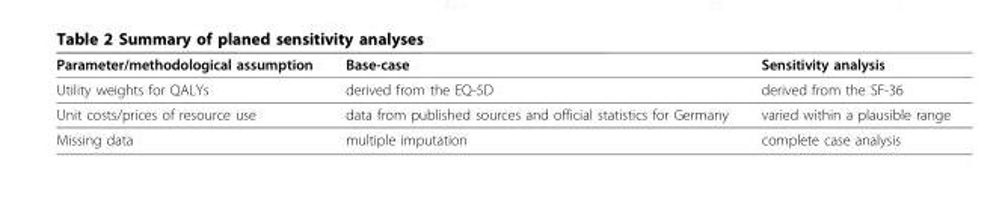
<table><thead><tr><td>Parameter/methodological assumption</td><td>Base-case</td><td>Sensitivity analysis</td></tr></thead><tbody><tr><td>Utility weights for QALYs</td><td>derived from the EQ-5D</td><td>derived from the SF-36</td></tr><tr><td>Unit costs/prices of resource use</td><td>data from published sources and official statistics for Germany</td><td>varied within a plausible range</td></tr><tr><td>Missing data</td><td>multiple imputation</td><td>complete case analysis</td></tr></tbody></table>